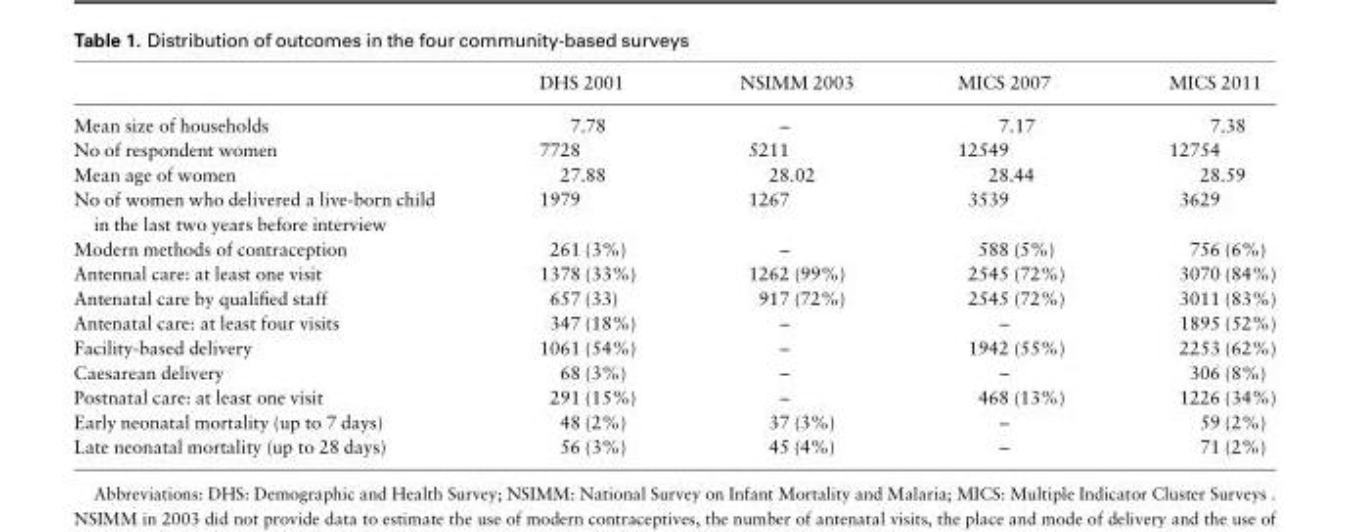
<table><thead><tr><td></td><td>DHS 2001</td><td>NSIMM 2003</td><td>MICS 2007</td><td>MICS 2011</td></tr></thead><tbody><tr><td>Mean size of households</td><td>7.78</td><td>–</td><td>7.17</td><td>7.38</td></tr><tr><td>No of respondent women</td><td>7728</td><td>5211</td><td>12549</td><td>12754</td></tr><tr><td>Mean age of women</td><td>27.88</td><td>28.02</td><td>28.44</td><td>28.59</td></tr><tr><td>No of women who delivered a live-born child in the last two years before interview</td><td>1979</td><td>1267</td><td>3539</td><td>3629</td></tr><tr><td>Modern methods of contraception</td><td>261 (3%)</td><td>–</td><td>588 (5%)</td><td>756 (6%)</td></tr><tr><td>Antennal care: at least one visit</td><td>1378 (33%)</td><td>1262 (99%)</td><td>2545 (72%)</td><td>3070 (84%)</td></tr><tr><td>Antenatal care by qualified staff</td><td>657 (33)</td><td>917 (72%)</td><td>2545 (72%)</td><td>3011 (83%)</td></tr><tr><td>Antenatal care: at least four visits</td><td>347 (18%)</td><td>–</td><td>–</td><td>1895 (52%)</td></tr><tr><td>Facility-based delivery</td><td>1061 (54%)</td><td>–</td><td>1942 (55%)</td><td>2253 (62%)</td></tr><tr><td>Caesarean delivery</td><td>68 (3%)</td><td>–</td><td>–</td><td>306 (8%)</td></tr><tr><td>Postnatal care: at least one visit</td><td>291 (15%)</td><td>–</td><td>468 (13%)</td><td>1226 (34%)</td></tr><tr><td>Early neonatal mortality (up to 7 days)</td><td>48 (2%)</td><td>37 (3%)</td><td>–</td><td>59 (2%)</td></tr><tr><td>Late neonatal mortality (up to 28 days)</td><td>56 (3%)</td><td>45 (4%)</td><td>–</td><td>71 (2%)</td></tr></tbody></table>